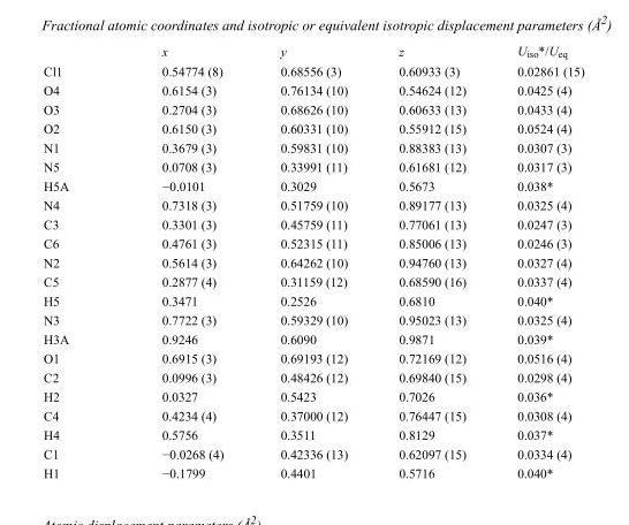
<table><thead><tr><td></td><td>x</td><td>y</td><td>z</td><td>U<sub>iso</sub>*/U<sub>eq</sub></td></tr></thead><tbody><tr><td>Cl1</td><td>0.54774 (8)</td><td>0.68556 (3)</td><td>0.60933 (3)</td><td>0.02861 (15)</td></tr><tr><td>O4</td><td>0.6154 (3)</td><td>0.76134 (10)</td><td>0.54624 (12)</td><td>0.0425 (4)</td></tr><tr><td>O3</td><td>0.2704 (3)</td><td>0.68626 (10)</td><td>0.60633 (13)</td><td>0.0433 (4)</td></tr><tr><td>O2</td><td>0.6150 (3)</td><td>0.60331 (10)</td><td>0.55912 (15)</td><td>0.0524 (4)</td></tr><tr><td>N1</td><td>0.3679 (3)</td><td>0.59831 (10)</td><td>0.88383 (13)</td><td>0.0307 (3)</td></tr><tr><td>N5</td><td>0.0708 (3)</td><td>0.33991 (11)</td><td>0.61681 (12)</td><td>0.0317 (3)</td></tr><tr><td>H5A</td><td>−0.0101</td><td>0.3029</td><td>0.5673</td><td>0.038*</td></tr><tr><td>N4</td><td>0.7318 (3)</td><td>0.51759 (10)</td><td>0.89177 (13)</td><td>0.0325 (4)</td></tr><tr><td>C3</td><td>0.3301 (3)</td><td>0.45759 (11)</td><td>0.77061 (13)</td><td>0.0247 (3)</td></tr><tr><td>C6</td><td>0.4761 (3)</td><td>0.52315 (11)</td><td>0.85006 (13)</td><td>0.0246 (3)</td></tr><tr><td>N2</td><td>0.5614 (3)</td><td>0.64262 (10)</td><td>0.94760 (13)</td><td>0.0327 (4)</td></tr><tr><td>C5</td><td>0.2877 (4)</td><td>0.31159 (12)</td><td>0.68590 (16)</td><td>0.0337 (4)</td></tr><tr><td>H5</td><td>0.3471</td><td>0.2526</td><td>0.6810</td><td>0.040*</td></tr><tr><td>N3</td><td>0.7722 (3)</td><td>0.59329 (10)</td><td>0.95023 (13)</td><td>0.0325 (4)</td></tr><tr><td>H3A</td><td>0.9246</td><td>0.6090</td><td>0.9871</td><td>0.039*</td></tr><tr><td>O1</td><td>0.6915 (3)</td><td>0.69193 (12)</td><td>0.72169 (12)</td><td>0.0516 (4)</td></tr><tr><td>C2</td><td>0.0996 (3)</td><td>0.48426 (12)</td><td>0.69840 (15)</td><td>0.0298 (4)</td></tr><tr><td>H2</td><td>0.0327</td><td>0.5423</td><td>0.7026</td><td>0.036*</td></tr><tr><td>C4</td><td>0.4234 (4)</td><td>0.37000 (12)</td><td>0.76447 (15)</td><td>0.0308 (4)</td></tr><tr><td>H4</td><td>0.5756</td><td>0.3511</td><td>0.8129</td><td>0.037*</td></tr><tr><td>C1</td><td>−0.0268 (4)</td><td>0.42336 (13)</td><td>0.62097 (15)</td><td>0.0334 (4)</td></tr><tr><td>H1</td><td>−0.1799</td><td>0.4401</td><td>0.5716</td><td>0.040*</td></tr></tbody></table>